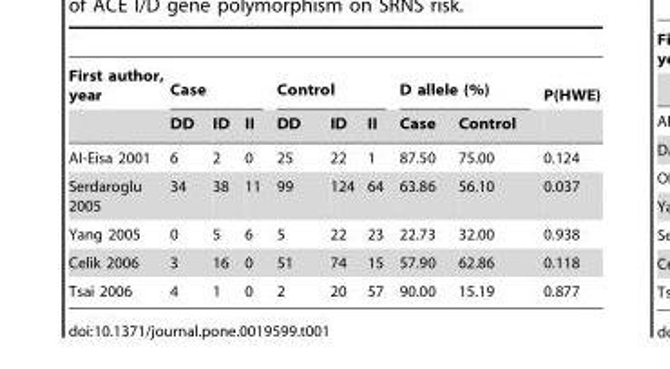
<table><thead><tr><td rowspan="2">First author, year</td><td colspan="3">Case</td><td colspan="3">Control</td><td colspan="2">D allele (%)</td><td rowspan="2">P(HWE)</td></tr><tr><td>DD</td><td>ID</td><td>II</td><td>DD</td><td>ID</td><td>II</td><td>Case</td><td>Control</td></tr></thead><tbody><tr><td>AI-Eisa 2001</td><td>6</td><td>2</td><td>0</td><td>25</td><td>22</td><td>1</td><td>87.50</td><td>75.00</td><td>0.124</td></tr><tr><td>Serdaroglu 2005</td><td>34</td><td>38</td><td>11</td><td>99</td><td>124</td><td>64</td><td>63.86</td><td>56.10</td><td>0.037</td></tr><tr><td>Yang 2005</td><td>0</td><td>5</td><td>6</td><td>5</td><td>22</td><td>23</td><td>22.73</td><td>32.00</td><td>0.938</td></tr><tr><td>Celik 2006</td><td>3</td><td>16</td><td>0</td><td>51</td><td>74</td><td>15</td><td>57.90</td><td>62.86</td><td>0.118</td></tr><tr><td>Tsai 2006</td><td>4</td><td>1</td><td>0</td><td>2</td><td>20</td><td>57</td><td>90.00</td><td>15.19</td><td>0.877</td></tr></tbody></table>